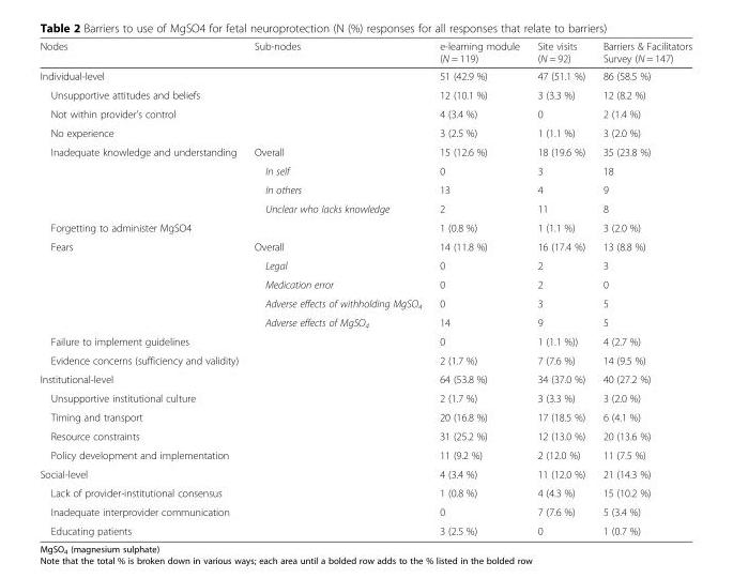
<table><thead><tr><td>Nodes</td><td>Sub-nodes</td><td>e-learning module (N = 119)</td><td>Site visits (N = 92)</td><td>Barriers &amp; Facilitators Survey (N = 147)</td></tr></thead><tbody><tr><td colspan="2">Individual-level</td><td>51 (42.9 %)</td><td>47 (51.1 %)</td><td>86 (58.5 %)</td></tr><tr><td colspan="2">Unsupportive attitudes and beliefs</td><td>12 (10.1 %)</td><td>3 (3.3 %)</td><td>12 (8.2 %)</td></tr><tr><td colspan="2">Not within provider’s control</td><td>4 (3.4 %)</td><td>0</td><td>2 (1.4 %)</td></tr><tr><td colspan="2">No experience</td><td>3 (2.5 %)</td><td>1 (1.1 %)</td><td>3 (2.0 %)</td></tr><tr><td rowspan="4">Inadequate knowledge and understanding</td><td>Overall</td><td>15 (12.6 %)</td><td>18 (19.6 %)</td><td>35 (23.8 %)</td></tr><tr><td>In self</td><td>0</td><td>3</td><td>18</td></tr><tr><td>In others</td><td>13</td><td>4</td><td>9</td></tr><tr><td>Unclear who lacks knowledge</td><td>2</td><td>11</td><td>8</td></tr><tr><td colspan="2">Forgetting to administer MgSO4</td><td>1 (0.8 %)</td><td>1 (1.1 %)</td><td>3 (2.0 %)</td></tr><tr><td rowspan="5">Fears</td><td>Overall</td><td>14 (11.8 %)</td><td>16 (17.4 %)</td><td>13 (8.8 %)</td></tr><tr><td>Legal</td><td>0</td><td>2</td><td>3</td></tr><tr><td>Medication error</td><td>0</td><td>2</td><td>0</td></tr><tr><td>Adverse effects of withholding MgSO<sub>4</sub></td><td>0</td><td>3</td><td>5</td></tr><tr><td>Adverse effects of MgSO<sub>4</sub></td><td>14</td><td>9</td><td>5</td></tr><tr><td colspan="2">Failure to implement guidelines</td><td>0</td><td>1 (1.1 %))</td><td>4 (2.7 %)</td></tr><tr><td colspan="2">Evidence concerns (sufficiency and validity)</td><td>2 (1.7 %)</td><td>7 (7.6 %)</td><td>14 (9.5 %)</td></tr><tr><td colspan="2">Institutional-level</td><td>64 (53.8 %)</td><td>34 (37.0 %)</td><td>40 (27.2 %)</td></tr><tr><td colspan="2">Unsupportive institutional culture</td><td>2 (1.7 %)</td><td>3 (3.3 %)</td><td>3 (2.0 %)</td></tr><tr><td colspan="2">Timing and transport</td><td>20 (16.8 %)</td><td>17 (18.5 %)</td><td>6 (4.1 %)</td></tr><tr><td colspan="2">Resource constraints</td><td>31 (25.2 %)</td><td>12 (13.0 %)</td><td>20 (13.6 %)</td></tr><tr><td colspan="2">Policy development and implementation</td><td>11 (9.2 %)</td><td>2 (12.0 %)</td><td>11 (7.5 %)</td></tr><tr><td colspan="2">Social-level</td><td>4 (3.4 %)</td><td>11 (12.0 %)</td><td>21 (14.3 %)</td></tr><tr><td colspan="2">Lack of provider-institutional consensus</td><td>1 (0.8 %)</td><td>4 (4.3 %)</td><td>15 (10.2 %)</td></tr><tr><td colspan="2">Inadequate interprovider communication</td><td>0</td><td>7 (7.6 %)</td><td>5 (3.4 %)</td></tr><tr><td colspan="2">Educating patients</td><td>3 (2.5 %)</td><td>0</td><td>1 (0.7 %)</td></tr></tbody></table>